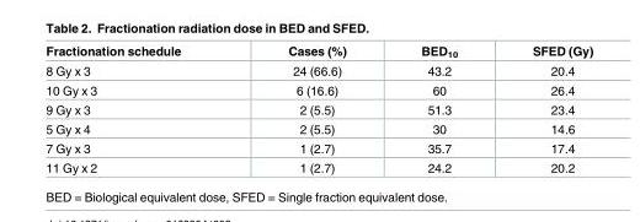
<table><thead><tr><td>Fractionation schedule</td><td>Cases (%)</td><td>BED<sub>10</sub></td><td>SFED (Gy)</td></tr></thead><tbody><tr><td>8 Gy x 3</td><td>24 (66.6)</td><td>43.2</td><td>20.4</td></tr><tr><td>10 Gy x 3</td><td>6 (16.6)</td><td>60</td><td>26.4</td></tr><tr><td>9 Gy x 3</td><td>2 (5.5)</td><td>51.3</td><td>23.4</td></tr><tr><td>5 Gy x 4</td><td>2 (5.5)</td><td>30</td><td>14.6</td></tr><tr><td>7 Gy x 3</td><td>1 (2.7)</td><td>35.7</td><td>17.4</td></tr><tr><td>11 Gy x 2</td><td>1 (2.7)</td><td>24.2</td><td>20.2</td></tr></tbody></table>